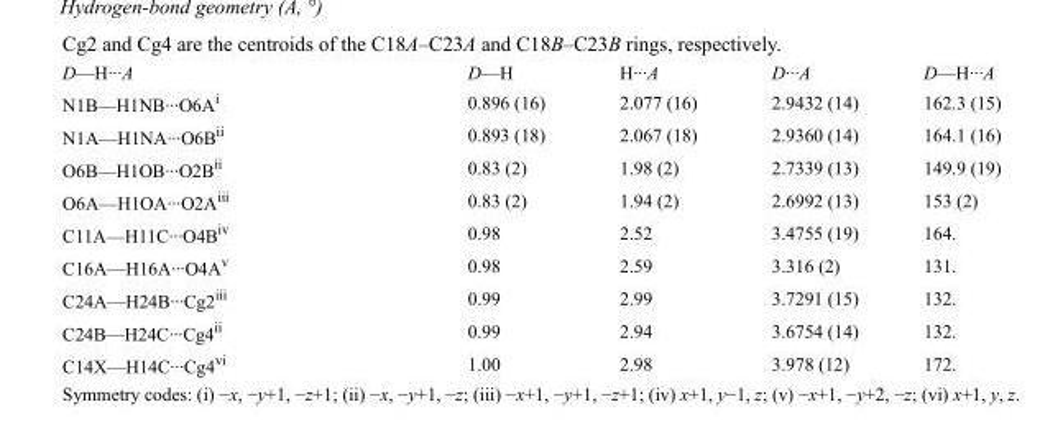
<table><tbody><tr><td>D—H···A</td><td>D—H</td><td>H···A</td><td>D···A</td><td>D—H···A</td></tr><tr><td>N1B—H1NB···O6A<sup>i</sup></td><td>0.896 (16)</td><td>2.077 (16)</td><td>2.9432 (14)</td><td>162.3 (15)</td></tr><tr><td>N1A—H1NA···O6B<sup>ii</sup></td><td>0.893 (18)</td><td>2.067 (18)</td><td>2.9360 (14)</td><td>164.1 (16)</td></tr><tr><td>O6B—H1OB···O2B<sup>ii</sup></td><td>0.83 (2)</td><td>1.98 (2)</td><td>2.7339 (13)</td><td>149.9 (19)</td></tr><tr><td>O6A—H1OA···O2A<sup>iii</sup></td><td>0.83 (2)</td><td>1.94 (2)</td><td>2.6992 (13)</td><td>153 (2)</td></tr><tr><td>C11A—H11C···O4B<sup>iv</sup></td><td>0.98</td><td>2.52</td><td>3.4755 (19)</td><td>164.</td></tr><tr><td>C16A—H16A···O4A<sup>v</sup></td><td>0.98</td><td>2.59</td><td>3.316 (2)</td><td>131.</td></tr><tr><td>C24A—H24B···Cg2<sup>iii</sup></td><td>0.99</td><td>2.99</td><td>3.7291 (15)</td><td>132.</td></tr><tr><td>C24B—H24C···Cg4<sup>ii</sup></td><td>0.99</td><td>2.94</td><td>3.6754 (14)</td><td>132.</td></tr><tr><td>C14X—H14C···Cg4<sup>vi</sup></td><td>1.00</td><td>2.98</td><td>3.978 (12)</td><td>172.</td></tr></tbody></table>